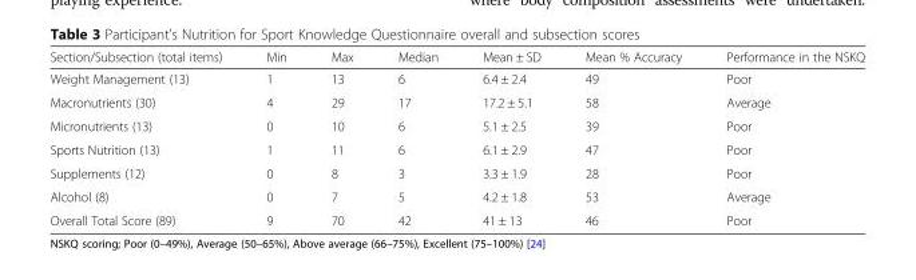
<table><thead><tr><td>Section/Subsection (total items)</td><td>Min</td><td>Max</td><td>Median</td><td>Mean ± SD</td><td>Mean % Accuracy</td><td>Performance in the NSKQ</td></tr></thead><tbody><tr><td>Weight Management (13)</td><td>1</td><td>13</td><td>6</td><td>6.4 ± 2.4</td><td>49</td><td>Poor</td></tr><tr><td>Macronutrients (30)</td><td>4</td><td>29</td><td>17</td><td>17.2 ± 5.1</td><td>58</td><td>Average</td></tr><tr><td>Micronutrients (13)</td><td>0</td><td>10</td><td>6</td><td>5.1 ± 2.5</td><td>39</td><td>Poor</td></tr><tr><td>Sports Nutrition (13)</td><td>1</td><td>11</td><td>6</td><td>6.1 ± 2.9</td><td>47</td><td>Poor</td></tr><tr><td>Supplements (12)</td><td>0</td><td>8</td><td>3</td><td>3.3 ± 1.9</td><td>28</td><td>Poor</td></tr><tr><td>Alcohol (8)</td><td>0</td><td>7</td><td>5</td><td>4.2 ± 1.8</td><td>53</td><td>Average</td></tr><tr><td>Overall Total Score (89)</td><td>9</td><td>70</td><td>42</td><td>41 ± 13</td><td>46</td><td>Poor</td></tr></tbody></table>